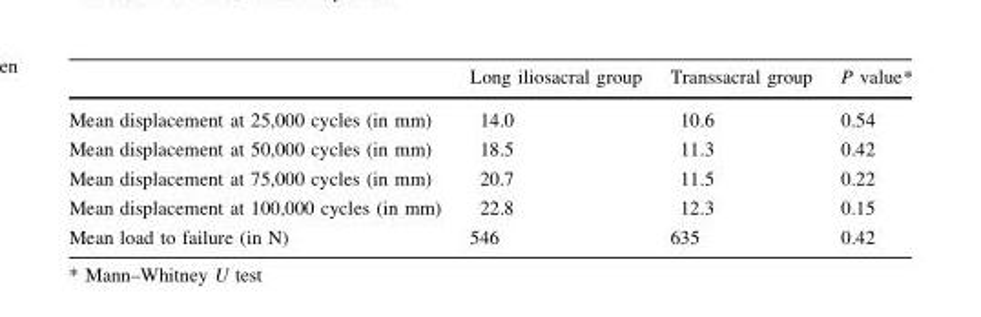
<table><thead><tr><td></td><td>Long iliosacral group</td><td>Transsacral group</td><td>P value*</td></tr></thead><tbody><tr><td>Mean displacement at 25,000 cycles (in mm)</td><td>14.0</td><td>10.6</td><td>0.54</td></tr><tr><td>Mean displacement at 50,000 cycles (in mm)</td><td>18.5</td><td>11.3</td><td>0.42</td></tr><tr><td>Mean displacement at 75,000 cycles (in mm)</td><td>20.7</td><td>11.5</td><td>0.22</td></tr><tr><td>Mean displacement at 100,000 cycles (in mm)</td><td>22.8</td><td>12.3</td><td>0.15</td></tr><tr><td>Mean load to failure (in N)</td><td>546</td><td>635</td><td>0.42</td></tr></tbody></table>